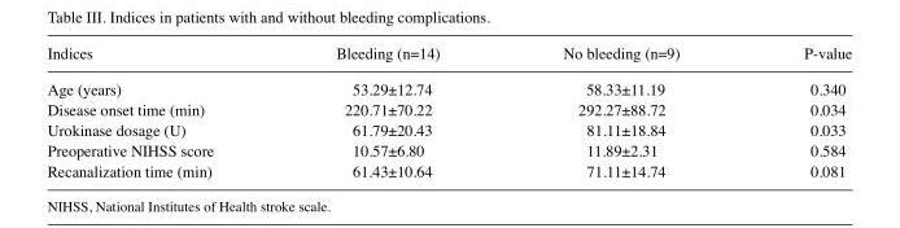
<table><thead><tr><td>Indices</td><td>Bleeding (n=14)</td><td>No bleeding (n=9)</td><td>P-value</td></tr></thead><tbody><tr><td>Age (years)</td><td>53.29±12.74</td><td>58.33±11.19</td><td>0.340</td></tr><tr><td>Disease onset time (min)</td><td>220.71±70.22</td><td>292.27±88.72</td><td>0.034</td></tr><tr><td>Urokinase dosage (U)</td><td>61.79±20.43</td><td>81.11±18.84</td><td>0.033</td></tr><tr><td>Preoperative NIHSS score</td><td>10.57±6.80</td><td>11.89±2.31</td><td>0.584</td></tr><tr><td>Recanalization time (min)</td><td>61.43±10.64</td><td>71.11±14.74</td><td>0.081</td></tr></tbody></table>